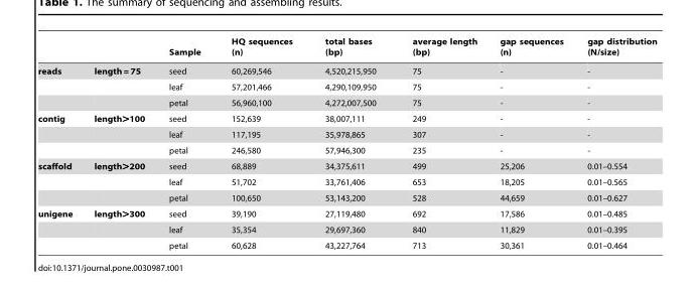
<table><thead><tr><td></td><td></td><td>Sample</td><td>HQ sequences (n)</td><td>total bases (bp)</td><td>average length (bp)</td><td>gap sequences (n)</td><td>gap distribution (N/size)</td></tr></thead><tbody><tr><td rowspan="3">reads</td><td>length = 75</td><td>seed</td><td>60,269,546</td><td>4,520,215,950</td><td>75</td><td>-</td><td>-</td></tr><tr><td></td><td>leaf</td><td>57,201,466</td><td>4,290,109,950</td><td>75</td><td>-</td><td>-</td></tr><tr><td></td><td>petal</td><td>56,960,100</td><td>4,272,007,500</td><td>75</td><td>-</td><td>-</td></tr><tr><td rowspan="3">contig</td><td>length&gt;100</td><td>seed</td><td>152,639</td><td>38,007,111</td><td>249</td><td>-</td><td>-</td></tr><tr><td></td><td>leaf</td><td>117,195</td><td>35,978,865</td><td>307</td><td>-</td><td>-</td></tr><tr><td></td><td>petal</td><td>246,580</td><td>57,946,300</td><td>235</td><td>-</td><td>-</td></tr><tr><td rowspan="3">scaffold</td><td>length&gt;200</td><td>seed</td><td>68,889</td><td>34,375,611</td><td>499</td><td>25,206</td><td>0.01–0.554</td></tr><tr><td></td><td>leaf</td><td>51,702</td><td>33,761,406</td><td>653</td><td>18,205</td><td>0.01–0.565</td></tr><tr><td></td><td>petal</td><td>100,650</td><td>53,143,200</td><td>528</td><td>44,659</td><td>0.01–0.627</td></tr><tr><td rowspan="3">unigene</td><td>length&gt;300</td><td>seed</td><td>39,190</td><td>27,119,480</td><td>692</td><td>17,586</td><td>0.01–0.485</td></tr><tr><td></td><td>leaf</td><td>35,354</td><td>29,697,360</td><td>840</td><td>11,829</td><td>0.01–0.395</td></tr><tr><td></td><td>petal</td><td>60,628</td><td>43,227,764</td><td>713</td><td>30,361</td><td>0.01–0.464</td></tr></tbody></table>